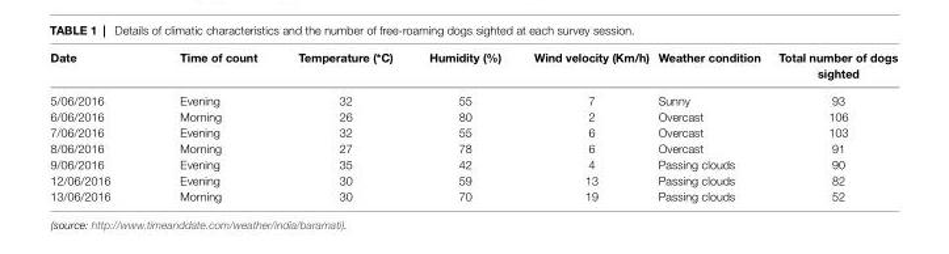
<table><thead><tr><td>Date</td><td>Time of count</td><td>Temperature (*c)</td><td>humidity (%)</td><td>Wind velocity (Km/h)</td><td>Weather condition</td><td>Total number of dogs sighted</td></tr></thead><tbody><tr><td>5/06/2016</td><td>Evening</td><td>32</td><td>55</td><td>7</td><td>Sunny</td><td>93</td></tr><tr><td>6/06/2016</td><td>Morning</td><td>26</td><td>80</td><td>2</td><td>Overcast</td><td>106</td></tr><tr><td>7/06/2016</td><td>Evening</td><td>32</td><td>55</td><td>6</td><td>Overcast</td><td>103</td></tr><tr><td>8/06/2016</td><td>Morning</td><td>27</td><td>78</td><td>6</td><td>Overcast</td><td>91</td></tr><tr><td>9/06/2016</td><td>Evening</td><td>35</td><td>42</td><td>4</td><td>Passing clouds</td><td>90</td></tr><tr><td>12/06/2016</td><td>Evening</td><td>30</td><td>59</td><td>13</td><td>Passing clouds</td><td>82</td></tr><tr><td>13/06/2016</td><td>Morning</td><td>30</td><td>70</td><td>19</td><td>Passing clouds</td><td>52</td></tr></tbody></table>